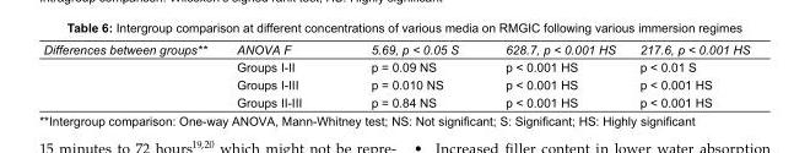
<table><tbody><tr><td rowspan="4">Differences between groups**</td><td>ANOVA F</td><td>5.69, p &lt; 0.05 S</td><td>628.7, p &lt; 0.001 HS</td><td>217.6, p &lt; 0.001 HS</td></tr><tr><td>Groups I-II</td><td>p = 0.09 NS</td><td>p &lt; 0.001 HS</td><td>p &lt; 0.01 S</td></tr><tr><td>Groups I-III</td><td>p = 0.010 NS</td><td>p &lt; 0.001 HS</td><td>p &lt; 0.001 HS</td></tr><tr><td>Groups II-III</td><td>p = 0.84 NS</td><td>p &lt; 0.001 HS</td><td>p &lt; 0.001 HS</td></tr></tbody></table>